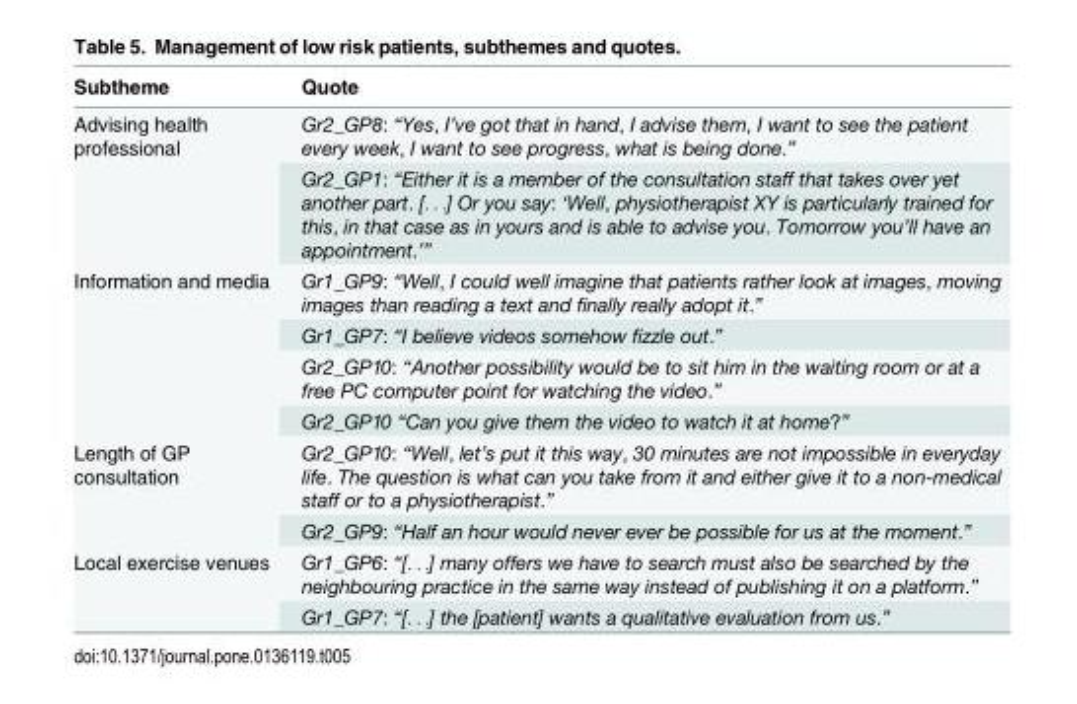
<table><thead><tr><td>Subtheme</td><td>Quote</td></tr></thead><tbody><tr><td rowspan="2">Advising health professional</td><td>Gr2_GP8: “Yes, I’ve got that in hand, I advise them, I want to see the patient every week, I want to see progress, what is being done.”</td></tr><tr><td>Gr2_GP1: “Either it is a member of the consultation staff that takes over yet another part. [. . .] Or you say: ‘Well, physiotherapist XY is particularly trained for this, in that case as in yours and is able to advise you. Tomorrow you’ll have an appointment.’”</td></tr><tr><td rowspan="4">Information and media</td><td>Gr1_GP9: “Well, I could well imagine that patients rather look at images, moving images than reading a text and finally really adopt it.”</td></tr><tr><td>Gr1_GP7: “I believe videos somehow fizzle out.”</td></tr><tr><td>Gr2_GP10: “Another possibility would be to sit him in the waiting room or at a free PC computer point for watching the video.”</td></tr><tr><td>Gr2_GP10 “Can you give them the video to watch it at home?”</td></tr><tr><td rowspan="2">Length of GP consultation</td><td>Gr2_GP10: “Well, let’s put it this way, 30 minutes are not impossible in everyday life. The question is what can you take from it and either give it to a non-medical staff or to a physiotherapist.”</td></tr><tr><td>Gr2_GP9: “Half an hour would never ever be possible for us at the moment.”</td></tr><tr><td rowspan="2">Local exercise venues</td><td>Gr1_GP6: “[. . .] many offers we have to search must also be searched by the neighbouring practice in the same way instead of publishing it on a platform.”</td></tr><tr><td>Gr1_GP7: “[. . .] the [patient] wants a qualitative evaluation from us.”</td></tr></tbody></table>